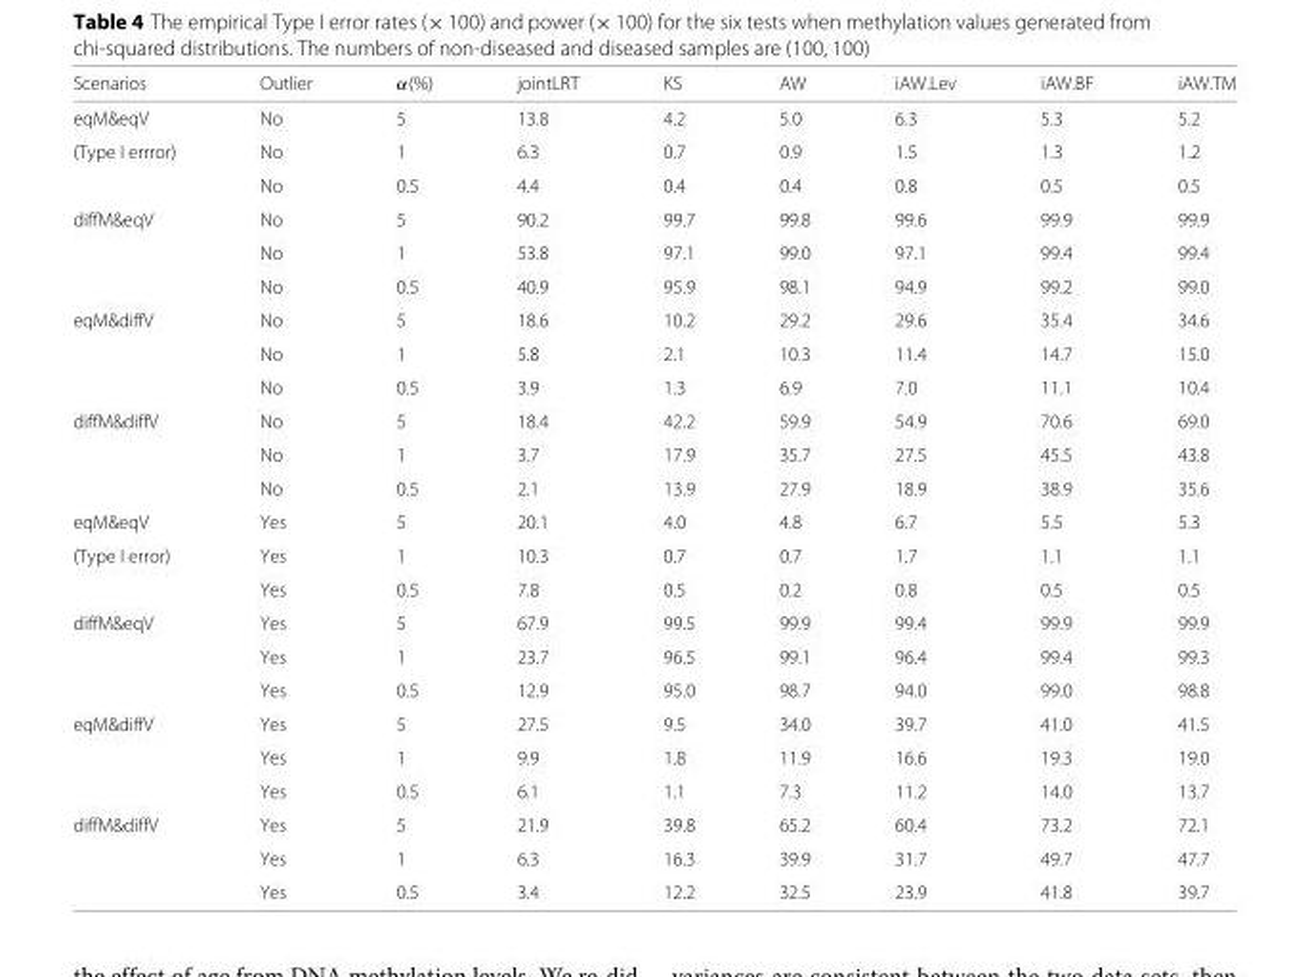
<table><thead><tr><td>Scenarios</td><td>Outlier</td><td>α(%)</td><td>jointLRT</td><td>KS</td><td>AW</td><td>iAW.Lev</td><td>iAW.BF</td><td>iAW.TM</td></tr></thead><tbody><tr><td>eqM&amp;eqV</td><td>No</td><td>5</td><td>13.8</td><td>4.2</td><td>5.0</td><td>6.3</td><td>5.3</td><td>5.2</td></tr><tr><td rowspan="2">(Type I errror)</td><td>No</td><td>1</td><td>6.3</td><td>0.7</td><td>0.9</td><td>1.5</td><td>1.3</td><td>1.2</td></tr><tr><td>No</td><td>0.5</td><td>4.4</td><td>0.4</td><td>0.4</td><td>0.8</td><td>0.5</td><td>0.5</td></tr><tr><td rowspan="3">diffM&amp;eqV</td><td>No</td><td>5</td><td>90.2</td><td>99.7</td><td>99.8</td><td>99.6</td><td>99.9</td><td>99.9</td></tr><tr><td>No</td><td>1</td><td>53.8</td><td>97.1</td><td>99.0</td><td>97.1</td><td>99.4</td><td>99.4</td></tr><tr><td>No</td><td>0.5</td><td>40.9</td><td>95.9</td><td>98.1</td><td>94.9</td><td>99.2</td><td>99.0</td></tr><tr><td rowspan="3">eqM&amp;diffV</td><td>No</td><td>5</td><td>18.6</td><td>10.2</td><td>29.2</td><td>29.6</td><td>35.4</td><td>34.6</td></tr><tr><td>No</td><td>1</td><td>5.8</td><td>2.1</td><td>10.3</td><td>11.4</td><td>14.7</td><td>15.0</td></tr><tr><td>No</td><td>0.5</td><td>3.9</td><td>1.3</td><td>6.9</td><td>7.0</td><td>11.1</td><td>10.4</td></tr><tr><td rowspan="3">diffM&amp;diffV</td><td>No</td><td>5</td><td>18.4</td><td>42.2</td><td>59.9</td><td>54.9</td><td>70.6</td><td>69.0</td></tr><tr><td>No</td><td>1</td><td>3.7</td><td>17.9</td><td>35.7</td><td>27.5</td><td>45.5</td><td>43.8</td></tr><tr><td>No</td><td>0.5</td><td>2.1</td><td>13.9</td><td>27.9</td><td>18.9</td><td>38.9</td><td>35.6</td></tr><tr><td>eqM&amp;eqV</td><td>Yes</td><td>5</td><td>20.1</td><td>4.0</td><td>4.8</td><td>6.7</td><td>5.5</td><td>5.3</td></tr><tr><td rowspan="2">(Type I error)</td><td>Yes</td><td>1</td><td>10.3</td><td>0.7</td><td>0.7</td><td>1.7</td><td>1.1</td><td>1.1</td></tr><tr><td>Yes</td><td>0.5</td><td>7.8</td><td>0.5</td><td>0.2</td><td>0.8</td><td>0.5</td><td>0.5</td></tr><tr><td rowspan="3">diffM&amp;eqV</td><td>Yes</td><td>5</td><td>67.9</td><td>99.5</td><td>99.9</td><td>99.4</td><td>99.9</td><td>99.9</td></tr><tr><td>Yes</td><td>1</td><td>23.7</td><td>96.5</td><td>99.1</td><td>96.4</td><td>99.4</td><td>99.3</td></tr><tr><td>Yes</td><td>0.5</td><td>12.9</td><td>95.0</td><td>98.7</td><td>94.0</td><td>99.0</td><td>98.8</td></tr><tr><td rowspan="3">eqM&amp;diffV</td><td>Yes</td><td>5</td><td>27.5</td><td>9.5</td><td>34.0</td><td>39.7</td><td>41.0</td><td>41.5</td></tr><tr><td>Yes</td><td>1</td><td>9.9</td><td>1.8</td><td>11.9</td><td>16.6</td><td>19.3</td><td>19.0</td></tr><tr><td>Yes</td><td>0.5</td><td>6.1</td><td>1.1</td><td>7.3</td><td>11.2</td><td>14.0</td><td>13.7</td></tr><tr><td rowspan="3">diffM&amp;diffV</td><td>Yes</td><td>5</td><td>21.9</td><td>39.8</td><td>65.2</td><td>60.4</td><td>73.2</td><td>72.1</td></tr><tr><td>Yes</td><td>1</td><td>6.3</td><td>16.3</td><td>39.9</td><td>31.7</td><td>49.7</td><td>47.7</td></tr><tr><td>Yes</td><td>0.5</td><td>3.4</td><td>12.2</td><td>32.5</td><td>23.9</td><td>41.8</td><td>39.7</td></tr></tbody></table>